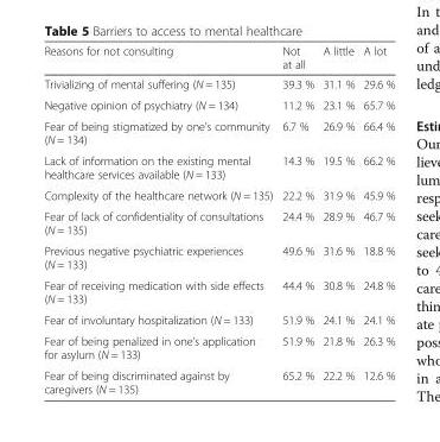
<table><thead><tr><td>Reasons for not consulting</td><td>Not at all</td><td>A little</td><td>A lot</td></tr></thead><tbody><tr><td>Trivializing of mental suffering (N = 135)</td><td>39.3 %</td><td>31.1 %</td><td>29.6 %</td></tr><tr><td>Negative opinion of psychiatry (N = 134)</td><td>11.2 %</td><td>23.1 %</td><td>65.7 %</td></tr><tr><td>Fear of being stigmatized by one’s community (N = 134)</td><td>6.7 %</td><td>26.9 %</td><td>66.4 %</td></tr><tr><td>Lack of information on the existing mental healthcare services available (N = 133)</td><td>14.3 %</td><td>19.5 %</td><td>66.2 %</td></tr><tr><td>Complexity of the healthcare network (N = 135)</td><td>22.2 %</td><td>31.9 %</td><td>45.9 %</td></tr><tr><td>Fear of lack of confidentiality of consultations (N = 135)</td><td>24.4 %</td><td>28.9 %</td><td>46.7 %</td></tr><tr><td>Previous negative psychiatric experiences (N = 133)</td><td>49.6 %</td><td>31.6 %</td><td>18.8 %</td></tr><tr><td>Fear of receiving medication with side effects (N = 133)</td><td>44.4 %</td><td>30.8 %</td><td>24.8 %</td></tr><tr><td>Fear of involuntary hospitalization (N = 133)</td><td>51.9 %</td><td>24.1 %</td><td>24.1 %</td></tr><tr><td>Fear of being penalized in one’s application for asylum (N = 133)</td><td>51.9 %</td><td>21.8 %</td><td>26.3 %</td></tr><tr><td>Fear of being discriminated against by caregivers (N = 135)</td><td>65.2 %</td><td>22.2 %</td><td>12.6 %</td></tr></tbody></table>